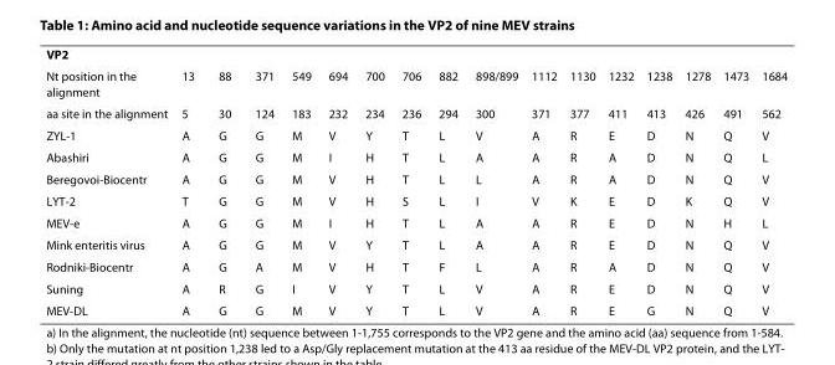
<table><tbody><tr><td colspan="17">VP2</td></tr><tr><td>Nt position in the alignment</td><td>13</td><td>88</td><td>371</td><td>549</td><td>694</td><td>700</td><td>706</td><td>882</td><td>898/899</td><td>1112</td><td>1130</td><td>1232</td><td>1238</td><td>1278</td><td>1473</td><td>1684</td></tr><tr><td>aa site in the alignment</td><td>5</td><td>30</td><td>124</td><td>183</td><td>232</td><td>234</td><td>236</td><td>294</td><td>300</td><td>371</td><td>377</td><td>411</td><td>413</td><td>426</td><td>491</td><td>562</td></tr><tr><td>ZYL-1</td><td>A</td><td>G</td><td>G</td><td>M</td><td>V</td><td>Y</td><td>T</td><td>L</td><td>V</td><td>A</td><td>R</td><td>E</td><td>D</td><td>N</td><td>Q</td><td>V</td></tr><tr><td>Abashiri</td><td>A</td><td>G</td><td>G</td><td>M</td><td>I</td><td>H</td><td>T</td><td>L</td><td>A</td><td>A</td><td>R</td><td>A</td><td>D</td><td>N</td><td>Q</td><td>L</td></tr><tr><td>Beregovoi-Biocentr</td><td>A</td><td>G</td><td>G</td><td>M</td><td>V</td><td>H</td><td>T</td><td>L</td><td>L</td><td>A</td><td>R</td><td>A</td><td>D</td><td>N</td><td>Q</td><td>V</td></tr><tr><td>LYT-2</td><td>T</td><td>G</td><td>G</td><td>M</td><td>V</td><td>H</td><td>S</td><td>L</td><td>I</td><td>V</td><td>K</td><td>E</td><td>D</td><td>K</td><td>Q</td><td>V</td></tr><tr><td>MEV-e</td><td>A</td><td>G</td><td>G</td><td>M</td><td>I</td><td>H</td><td>T</td><td>L</td><td>A</td><td>A</td><td>R</td><td>E</td><td>D</td><td>N</td><td>H</td><td>L</td></tr><tr><td>Mink enteritis virus</td><td>A</td><td>G</td><td>G</td><td>M</td><td>V</td><td>Y</td><td>T</td><td>L</td><td>A</td><td>A</td><td>R</td><td>E</td><td>D</td><td>N</td><td>Q</td><td>V</td></tr><tr><td>Rodniki-Biocentr</td><td>A</td><td>G</td><td>A</td><td>M</td><td>V</td><td>H</td><td>T</td><td>F</td><td>L</td><td>A</td><td>R</td><td>A</td><td>D</td><td>N</td><td>Q</td><td>V</td></tr><tr><td>Suning</td><td>A</td><td>R</td><td>G</td><td>I</td><td>V</td><td>Y</td><td>T</td><td>L</td><td>V</td><td>A</td><td>R</td><td>E</td><td>D</td><td>N</td><td>Q</td><td>V</td></tr><tr><td>MEV-DL</td><td>A</td><td>G</td><td>G</td><td>M</td><td>V</td><td>Y</td><td>T</td><td>L</td><td>V</td><td>A</td><td>R</td><td>E</td><td>G</td><td>N</td><td>Q</td><td>V</td></tr></tbody></table>